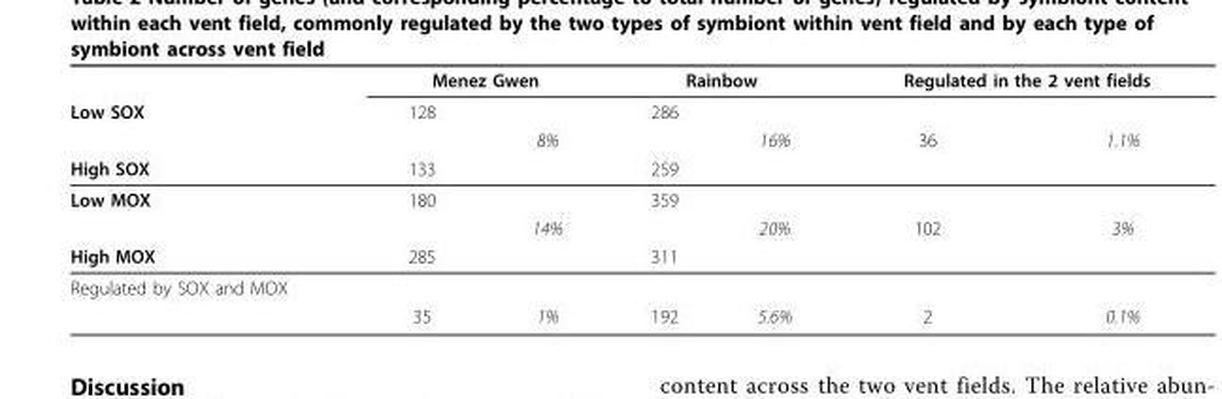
<table><thead><tr><td rowspan="4">Low SOX High SOX</td><td colspan="2">Menez Gwen</td><td colspan="2">Rainbow</td><td colspan="2">Regulated in the 2 vent fields</td></tr><tr><td rowspan="3">128 133</td><td rowspan="3">8%</td><td rowspan="3">286 259</td><td rowspan="3">16%</td><td rowspan="3">36</td><td rowspan="3">1.1%</td></tr><tr></tr><tr></tr></thead><tbody><tr><td rowspan="2">Low MOX</td><td>180</td><td></td><td>359</td><td></td><td></td><td></td></tr><tr><td></td><td>14%</td><td></td><td>20%</td><td>102</td><td>3%</td></tr><tr><td>High MOX</td><td>285</td><td></td><td>311</td><td></td><td></td><td></td></tr><tr><td colspan="7">Regulated by SOX and MOX</td></tr><tr><td></td><td>35</td><td>1%</td><td>192</td><td>5.6%</td><td>2</td><td>0.1%</td></tr></tbody></table>